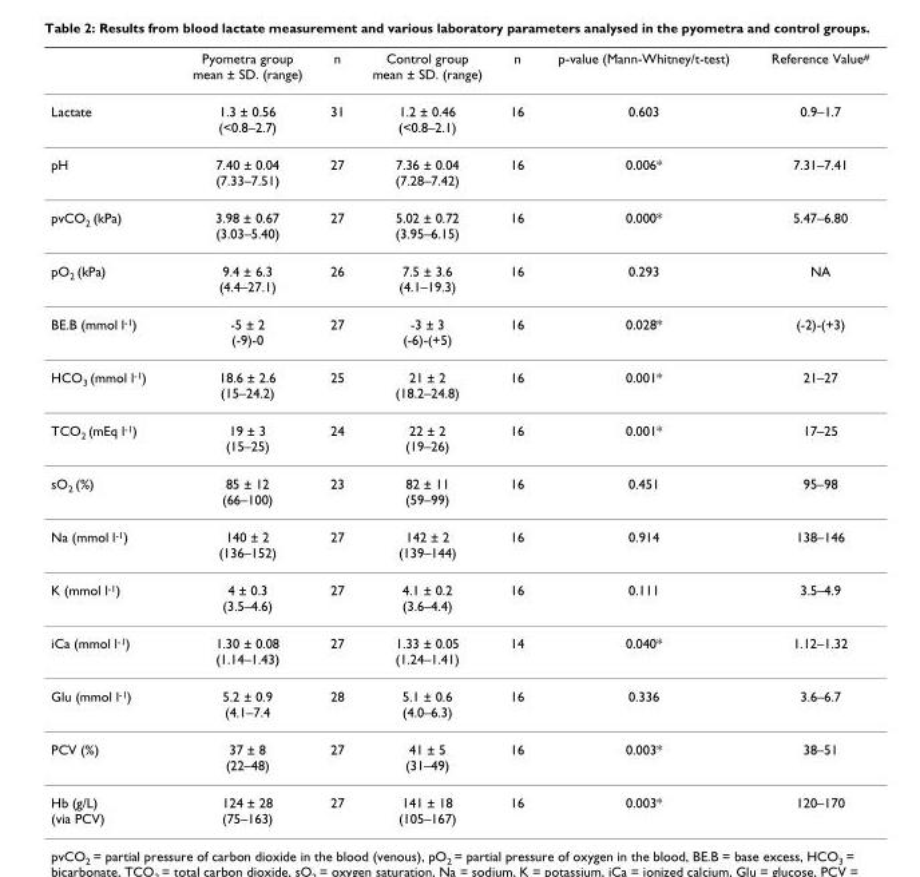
<table><thead><tr><td></td><td>Pyometra group mean ± SD. (range)</td><td>n</td><td>Control group mean ± SD. (range)</td><td>n</td><td>p-value (Mann-Whitney/t-test)</td><td>Reference Value#</td></tr></thead><tbody><tr><td>Lactate</td><td>1.3 ± 0.56 (&lt;0.8–2.7)</td><td>31</td><td>1.2 ± 0.46 (&lt;0.8–2.1)</td><td>16</td><td>0.603</td><td>0.9–1.7</td></tr><tr><td>pH</td><td>7.40 ± 0.04 (7.33–7.51)</td><td>27</td><td>7.36 ± 0.04 (7.28–7.42)</td><td>16</td><td>0.006*</td><td>7.31–7.41</td></tr><tr><td>pvCO2 (kPa)</td><td>3.98 ± 0.67 (3.03–5.40)</td><td>27</td><td>5.02 ± 0.72 (3.95–6.15)</td><td>16</td><td>0.000*</td><td>5.47–6.80</td></tr><tr><td>pO2 (kPa)</td><td>9.4 ± 6.3 (4.4–27.1)</td><td>26</td><td>7.5 ± 3.6 (4.1–19.3)</td><td>16</td><td>0.293</td><td>NA</td></tr><tr><td>BE.B (mmol l-1)</td><td>-5 ± 2 (-9)-0</td><td>27</td><td>-3 ± 3 (-6)-(+5)</td><td>16</td><td>0.028*</td><td>(-2)-(+3)</td></tr><tr><td>HCO3 (mmol l-1)</td><td>18.6 ± 2.6 (15–24.2)</td><td>25</td><td>21 ± 2 (18.2–24.8)</td><td>16</td><td>0.001*</td><td>21–27</td></tr><tr><td>TCO2 (mEq l-1)</td><td>19 ± 3 (15–25)</td><td>24</td><td>22 ± 2 (19–26)</td><td>16</td><td>0.001*</td><td>17–25</td></tr><tr><td>sO2 (%)</td><td>85 ± 12 (66–100)</td><td>23</td><td>82 ± 11 (59–99)</td><td>16</td><td>0.451</td><td>95–98</td></tr><tr><td>Na (mmol l-1)</td><td>140 ± 2 (136–152)</td><td>27</td><td>142 ± 2 (139–144)</td><td>16</td><td>0.914</td><td>138–146</td></tr><tr><td>K (mmol l-1)</td><td>4 ± 0.3 (3.5–4.6)</td><td>27</td><td>4.1 ± 0.2 (3.6–4.4)</td><td>16</td><td>0.111</td><td>3.5–4.9</td></tr><tr><td>iCa (mmol l-1)</td><td>1.30 ± 0.08 (1.14–1.43)</td><td>27</td><td>1.33 ± 0.05 (1.24–1.41)</td><td>14</td><td>0.040*</td><td>1.12–1.32</td></tr><tr><td>Glu (mmol l-1)</td><td>5.2 ± 0.9 (4.1–7.4</td><td>28</td><td>5.1 ± 0.6 (4.0–6.3)</td><td>16</td><td>0.336</td><td>3.6–6.7</td></tr><tr><td>PCV (%)</td><td>37 ± 8 (22–48)</td><td>27</td><td>41 ± 5 (31–49)</td><td>16</td><td>0.003*</td><td>38–51</td></tr><tr><td>Hb (g/L) (via PCV)</td><td>124 ± 28 (75–163)</td><td>27</td><td>141 ± 18 (105–167)</td><td>16</td><td>0.003*</td><td>120–170</td></tr></tbody></table>